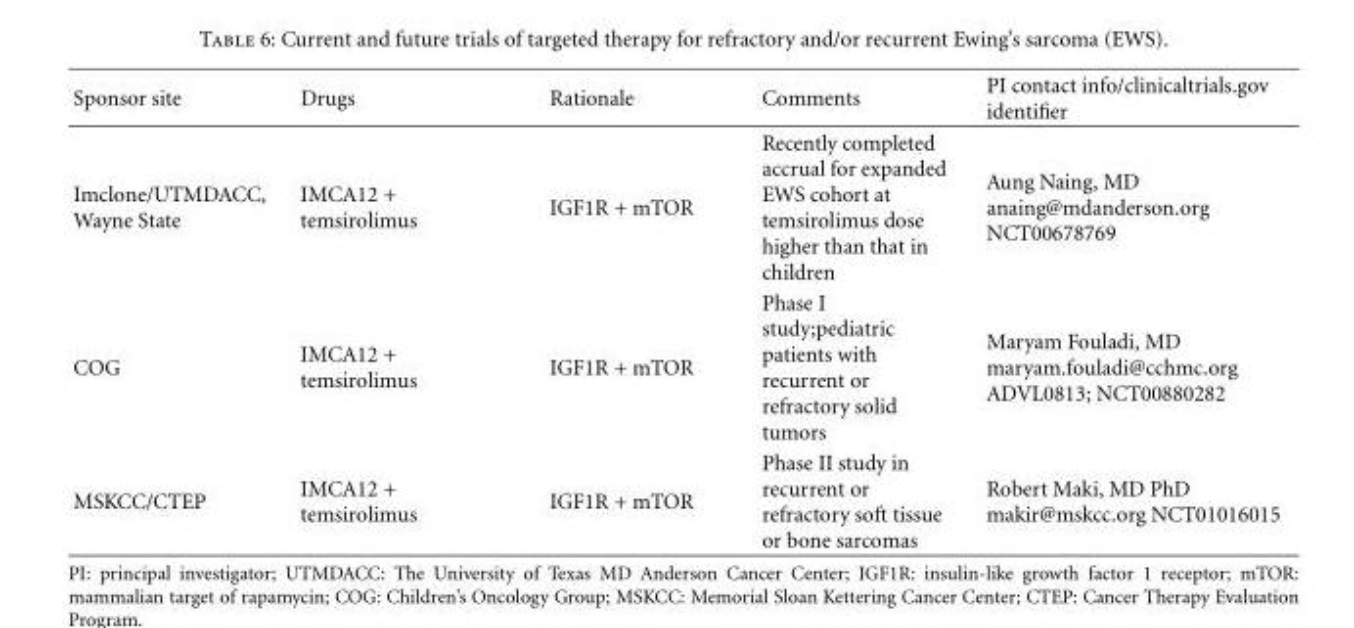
<table><thead><tr><td>Sponsor site</td><td>Drugs</td><td>Rationale</td><td>Comments</td><td>PI contact info/clinicaltrials.gov identifier</td></tr></thead><tbody><tr><td>Imclone/UTMDACC, Wayne State</td><td>IMCA12 + temsirolimus</td><td>IGF1R + mTOR</td><td>Recently completed accrual for expanded EWS cohort at temsirolimus dose higher than that in children</td><td>Aung Naing, MD anaing@mdanderson.org NCT00678769</td></tr><tr><td>COG</td><td>IMCA12 + temsirolimus</td><td>IGF1R + mTOR</td><td>Phase I study;pediatric patients with recurrent or refractory solid tumors</td><td>Maryam Fouladi, MD maryam.fouladi@cchmc.org ADVL0813; NCT00880282</td></tr><tr><td>MSKCC/CTEP</td><td>IMCA12 + temsirolimus</td><td>IGF1R + mTOR</td><td>Phase II study in recurrent or refractory soft tissue or bone sarcomas</td><td>Robert Maki, MD PhD makir@mskcc.org NCT01016015</td></tr></tbody></table>